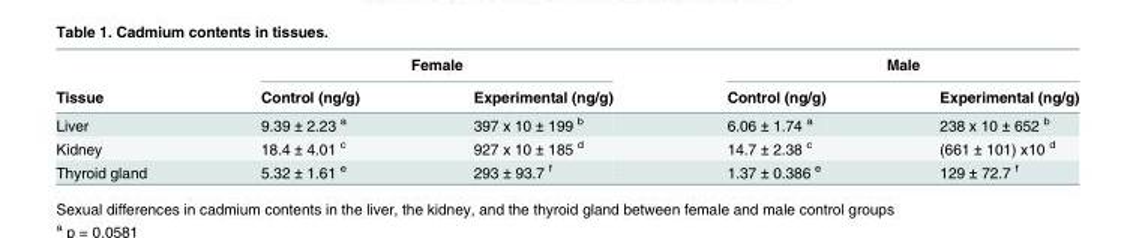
<table><thead><tr><td rowspan="2">Tissue</td><td colspan="2">Female</td><td colspan="2">Male</td></tr><tr><td>Control (ng/g)</td><td>Experimental (ng/g)</td><td>Control (ng/g)</td><td>Experimental (ng/g)</td></tr></thead><tbody><tr><td>Liver</td><td>9.39 ± 2.23 <sup>a</sup></td><td>397 x 10 ± 199 <sup>b</sup></td><td>6.06 ± 1.74 <sup>a</sup></td><td>238 x 10 ± 652 <sup>b</sup></td></tr><tr><td>Kidney</td><td>18.4 ± 4.01 <sup>c</sup></td><td>927 x 10 ± 185 <sup>d</sup></td><td>14.7 ± 2.38 <sup>c</sup></td><td>(661 ± 101) x10 <sup>d</sup></td></tr><tr><td>Thyroid gland</td><td>5.32 ± 1.61 <sup>e</sup></td><td>293 ± 93.7 <sup>f</sup></td><td>1.37 ± 0.386 <sup>e</sup></td><td>129 ± 72.7 <sup>f</sup></td></tr></tbody></table>